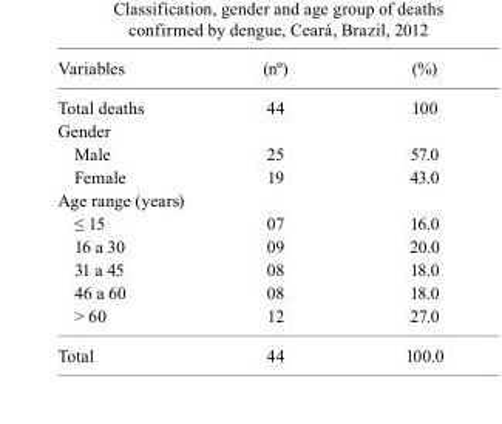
<table><tbody><tr><td>Variables</td><td>(nº)</td><td>(%)</td></tr><tr><td>Total deaths</td><td>44</td><td>100</td></tr><tr><td colspan="3">Gender</td></tr><tr><td>Male</td><td>25</td><td>57.0</td></tr><tr><td>Female</td><td>19</td><td>43.0</td></tr><tr><td colspan="3">Age range (years)</td></tr><tr><td>≤ 15</td><td>07</td><td>16.0</td></tr><tr><td>16 a 30</td><td>09</td><td>20.0</td></tr><tr><td>31 a 45</td><td>08</td><td>18.0</td></tr><tr><td>46 a 60</td><td>08</td><td>18.0</td></tr><tr><td>&gt; 60</td><td>12</td><td>27.0</td></tr><tr><td>Total</td><td>44</td><td>100.0</td></tr></tbody></table>